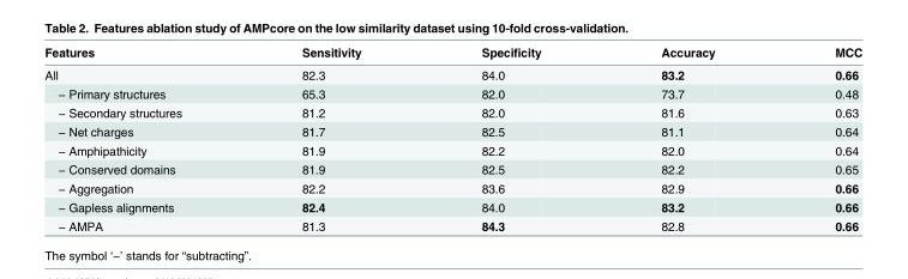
<table><thead><tr><td>Features</td><td>Sensitivity</td><td>Specificity</td><td>Accuracy</td><td>MCC</td></tr></thead><tbody><tr><td>All</td><td>82.3</td><td>84.0</td><td>83.2</td><td>0.66</td></tr><tr><td>− Primary structures</td><td>65.3</td><td>82.0</td><td>73.7</td><td>0.48</td></tr><tr><td>− Secondary structures</td><td>81.2</td><td>82.0</td><td>81.6</td><td>0.63</td></tr><tr><td>− Net charges</td><td>81.7</td><td>82.5</td><td>81.1</td><td>0.64</td></tr><tr><td>− Amphipathicity</td><td>81.9</td><td>82.2</td><td>82.0</td><td>0.64</td></tr><tr><td>− Conserved domains</td><td>81.9</td><td>82.5</td><td>82.2</td><td>0.65</td></tr><tr><td>− Aggregation</td><td>82.2</td><td>83.6</td><td>82.9</td><td>0.66</td></tr><tr><td>− Gapless alignments</td><td>82.4</td><td>84.0</td><td>83.2</td><td>0.66</td></tr><tr><td>− AMPA</td><td>81.3</td><td>84.3</td><td>82.8</td><td>0.66</td></tr></tbody></table>